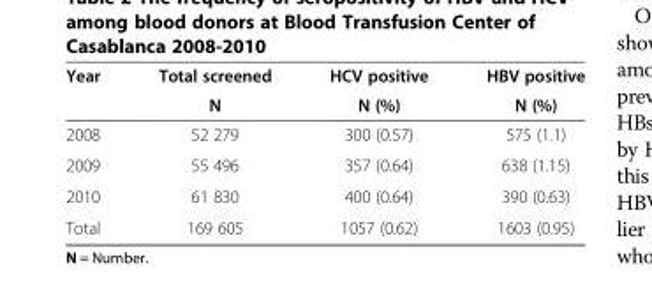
<table><thead><tr><td rowspan="2">Year</td><td rowspan="2">Total screened N</td><td rowspan="2">HCV positive N (%)</td><td rowspan="2">HBV positive N (%)</td></tr><tr></tr></thead><tbody><tr><td>2008</td><td>52 279</td><td>300 (0.57)</td><td>575 (1.1)</td></tr><tr><td>2009</td><td>55 496</td><td>357 (0.64)</td><td>638 (1.15)</td></tr><tr><td>2010</td><td>61 830</td><td>400 (0.64)</td><td>390 (0.63)</td></tr><tr><td>Total</td><td>169 605</td><td>1057 (0.62)</td><td>1603 (0.95)</td></tr></tbody></table>